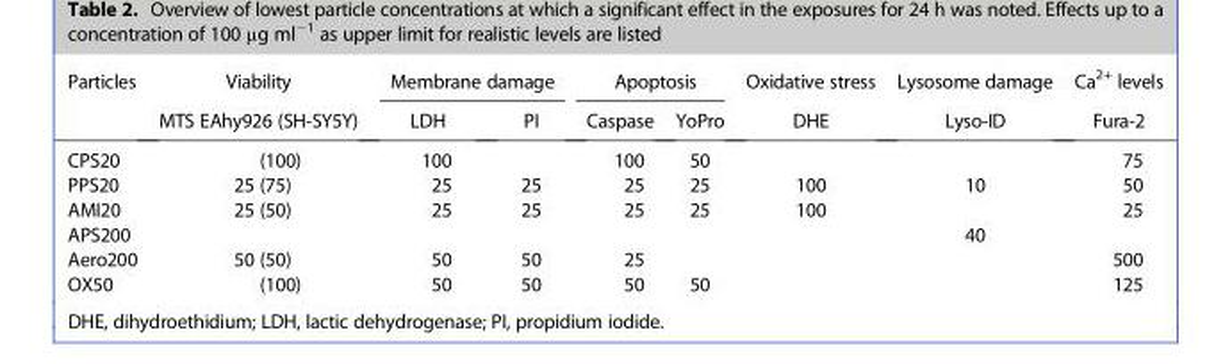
<table><thead><tr><td rowspan="2">Particles</td><td rowspan="2">Viability MTS EAhy926 (SH-SY5Y)</td><td colspan="2">Membrane damage</td><td colspan="2">Apoptosis</td><td rowspan="2">Oxidative stress DHE</td><td rowspan="2">Lysosome damage Lyso-ID</td><td rowspan="2">Ca<sup>2+</sup> levels Fura-2</td></tr><tr><td>LDH</td><td>PI</td><td>Caspase</td><td>YoPro</td></tr></thead><tbody><tr><td>CPS20</td><td>(100)</td><td>100</td><td></td><td>100</td><td>50</td><td></td><td></td><td>75</td></tr><tr><td>PPS20</td><td>25 (75)</td><td>25</td><td>25</td><td>25</td><td>25</td><td>100</td><td>10</td><td>50</td></tr><tr><td>AMI20</td><td>25 (50)</td><td>25</td><td>25</td><td>25</td><td>25</td><td>100</td><td></td><td>25</td></tr><tr><td>APS200</td><td></td><td></td><td></td><td></td><td></td><td></td><td>40</td><td></td></tr><tr><td>Aero200</td><td>50 (50)</td><td>50</td><td>50</td><td>25</td><td></td><td></td><td></td><td>500</td></tr><tr><td>OX50</td><td>(100)</td><td>50</td><td>50</td><td>50</td><td>50</td><td></td><td></td><td>125</td></tr></tbody></table>